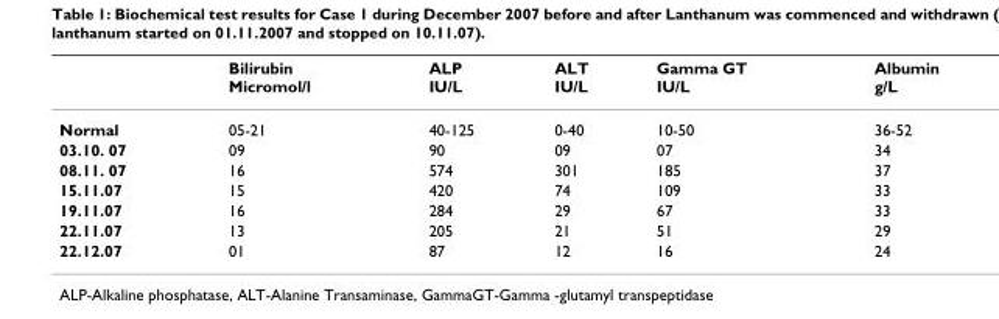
<table><thead><tr><td></td><td>Bilirubin Micromol/l</td><td>ALP IU/L</td><td>ALT IU/L</td><td>Gamma GT IU/L</td><td>Albumin g/L</td></tr></thead><tbody><tr><td>Normal</td><td>05-21</td><td>40-125</td><td>0-40</td><td>10-50</td><td>36-52</td></tr><tr><td>03.10. 07</td><td>09</td><td>90</td><td>09</td><td>07</td><td>34</td></tr><tr><td>08.11. 07</td><td>16</td><td>574</td><td>301</td><td>185</td><td>37</td></tr><tr><td>15.11.07</td><td>15</td><td>420</td><td>74</td><td>109</td><td>33</td></tr><tr><td>19.11.07</td><td>16</td><td>284</td><td>29</td><td>67</td><td>33</td></tr><tr><td>22.11.07</td><td>13</td><td>205</td><td>21</td><td>51</td><td>29</td></tr><tr><td>22.12.07</td><td>01</td><td>87</td><td>12</td><td>16</td><td>24</td></tr></tbody></table>